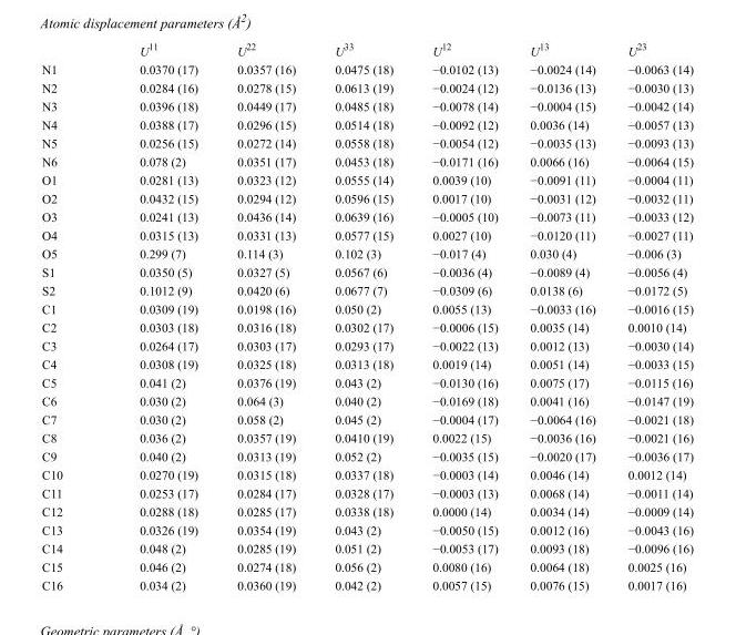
<table><thead><tr><td></td><td>U<sup>11</sup></td><td>U<sup>22</sup></td><td>U<sup>33</sup></td><td>U<sup>12</sup></td><td>U<sup>13</sup></td><td>U<sup>23</sup></td></tr></thead><tbody><tr><td>N1</td><td>0.0370 (17)</td><td>0.0357 (16)</td><td>0.0475 (18)</td><td>−0.0102 (13)</td><td>−0.0024 (14)</td><td>−0.0063 (14)</td></tr><tr><td>N2</td><td>0.0284 (16)</td><td>0.0278 (15)</td><td>0.0613 (19)</td><td>−0.0024 (12)</td><td>−0.0136 (13)</td><td>−0.0030 (13)</td></tr><tr><td>N3</td><td>0.0396 (18)</td><td>0.0449 (17)</td><td>0.0485 (18)</td><td>−0.0078 (14)</td><td>−0.0004 (15)</td><td>−0.0042 (14)</td></tr><tr><td>N4</td><td>0.0388 (17)</td><td>0.0296 (15)</td><td>0.0514 (18)</td><td>−0.0092 (12)</td><td>0.0036 (14)</td><td>−0.0057 (13)</td></tr><tr><td>N5</td><td>0.0256 (15)</td><td>0.0272 (14)</td><td>0.0558 (18)</td><td>−0.0054 (12)</td><td>−0.0035 (13)</td><td>−0.0093 (13)</td></tr><tr><td>N6</td><td>0.078 (2)</td><td>0.0351 (17)</td><td>0.0453 (18)</td><td>−0.0171 (16)</td><td>0.0066 (16)</td><td>−0.0064 (15)</td></tr><tr><td>O1</td><td>0.0281 (13)</td><td>0.0323 (12)</td><td>0.0555 (14)</td><td>0.0039 (10)</td><td>−0.0091 (11)</td><td>−0.0004 (11)</td></tr><tr><td>O2</td><td>0.0432 (15)</td><td>0.0294 (12)</td><td>0.0596 (15)</td><td>0.0017 (10)</td><td>−0.0031 (12)</td><td>−0.0032 (11)</td></tr><tr><td>O3</td><td>0.0241 (13)</td><td>0.0436 (14)</td><td>0.0639 (16)</td><td>−0.0005 (10)</td><td>−0.0073 (11)</td><td>−0.0033 (12)</td></tr><tr><td>O4</td><td>0.0315 (13)</td><td>0.0331 (13)</td><td>0.0577 (15)</td><td>0.0027 (10)</td><td>−0.0120 (11)</td><td>−0.0027 (11)</td></tr><tr><td>O5</td><td>0.299 (7)</td><td>0.114 (3)</td><td>0.102 (3)</td><td>−0.017 (4)</td><td>0.030 (4)</td><td>−0.006 (3)</td></tr><tr><td>S1</td><td>0.0350 (5)</td><td>0.0327 (5)</td><td>0.0567 (6)</td><td>−0.0036 (4)</td><td>−0.0089 (4)</td><td>−0.0056 (4)</td></tr><tr><td>S2</td><td>0.1012 (9)</td><td>0.0420 (6)</td><td>0.0677 (7)</td><td>−0.0309 (6)</td><td>0.0138 (6)</td><td>−0.0172 (5)</td></tr><tr><td>C1</td><td>0.0309 (19)</td><td>0.0198 (16)</td><td>0.050 (2)</td><td>0.0055 (13)</td><td>−0.0033 (16)</td><td>−0.0016 (15)</td></tr><tr><td>C2</td><td>0.0303 (18)</td><td>0.0316 (18)</td><td>0.0302 (17)</td><td>−0.0006 (15)</td><td>0.0035 (14)</td><td>0.0010 (14)</td></tr><tr><td>C3</td><td>0.0264 (17)</td><td>0.0303 (17)</td><td>0.0293 (17)</td><td>−0.0022 (13)</td><td>0.0012 (13)</td><td>−0.0030 (14)</td></tr><tr><td>C4</td><td>0.0308 (19)</td><td>0.0325 (18)</td><td>0.0313 (18)</td><td>0.0019 (14)</td><td>0.0051 (14)</td><td>−0.0033 (15)</td></tr><tr><td>C5</td><td>0.041 (2)</td><td>0.0376 (19)</td><td>0.043 (2)</td><td>−0.0130 (16)</td><td>0.0075 (17)</td><td>−0.0115 (16)</td></tr><tr><td>C6</td><td>0.030 (2)</td><td>0.064 (3)</td><td>0.040 (2)</td><td>−0.0169 (18)</td><td>0.0041 (16)</td><td>−0.0147 (19)</td></tr><tr><td>C7</td><td>0.030 (2)</td><td>0.058 (2)</td><td>0.045 (2)</td><td>−0.0004 (17)</td><td>−0.0064 (16)</td><td>−0.0021 (18)</td></tr><tr><td>C8</td><td>0.036 (2)</td><td>0.0357 (19)</td><td>0.0410 (19)</td><td>0.0022 (15)</td><td>−0.0036 (16)</td><td>−0.0021 (16)</td></tr><tr><td>C9</td><td>0.040 (2)</td><td>0.0313 (19)</td><td>0.052 (2)</td><td>−0.0035 (15)</td><td>−0.0020 (17)</td><td>−0.0036 (17)</td></tr><tr><td>C10</td><td>0.0270 (19)</td><td>0.0315 (18)</td><td>0.0337 (18)</td><td>−0.0003 (14)</td><td>0.0046 (14)</td><td>0.0012 (14)</td></tr><tr><td>C11</td><td>0.0253 (17)</td><td>0.0284 (17)</td><td>0.0328 (17)</td><td>−0.0003 (13)</td><td>0.0068 (14)</td><td>−0.0011 (14)</td></tr><tr><td>C12</td><td>0.0288 (18)</td><td>0.0285 (17)</td><td>0.0338 (18)</td><td>0.0000 (14)</td><td>0.0034 (14)</td><td>−0.0009 (14)</td></tr><tr><td>C13</td><td>0.0326 (19)</td><td>0.0354 (19)</td><td>0.043 (2)</td><td>−0.0050 (15)</td><td>0.0012 (16)</td><td>−0.0043 (16)</td></tr><tr><td>C14</td><td>0.048 (2)</td><td>0.0285 (19)</td><td>0.051 (2)</td><td>−0.0053 (17)</td><td>0.0093 (18)</td><td>−0.0096 (16)</td></tr><tr><td>C15</td><td>0.046 (2)</td><td>0.0274 (18)</td><td>0.056 (2)</td><td>0.0080 (16)</td><td>0.0064 (18)</td><td>0.0025 (16)</td></tr><tr><td>C16</td><td>0.034 (2)</td><td>0.0360 (19)</td><td>0.042 (2)</td><td>0.0057 (15)</td><td>0.0076 (15)</td><td>0.0017 (16)</td></tr></tbody></table>